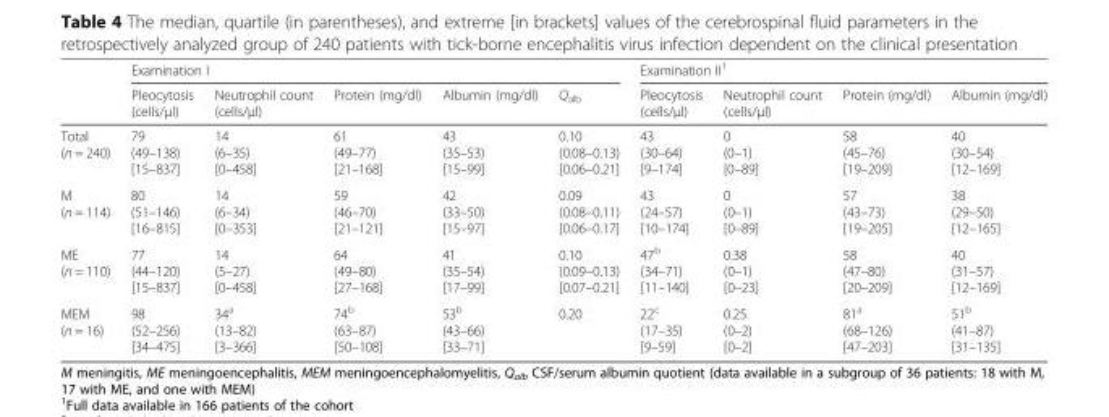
<table><thead><tr><td rowspan="2"></td><td colspan="5">Examination I</td><td colspan="4">Examination II<sup>1</sup></td></tr><tr><td>Pleocytosis (cells/μl)</td><td>Neutrophil count (cells/μl)</td><td>Protein (mg/dl)</td><td>Albumin (mg/dl)</td><td>Q<sub>alb</sub></td><td>Pleocytosis (cells/μl)</td><td>Neutrophil count (cells/μl)</td><td>Protein (mg/dl)</td><td>Albumin (mg/dl)</td></tr></thead><tbody><tr><td>Total (n = 240)</td><td>79 (49–138) [15–837]</td><td>14 (6–35) [0–458]</td><td>61 (49–77) [21–168]</td><td>43 (35–53) [15–99]</td><td>0.10 (0.08–0.13) [0.06–0.21]</td><td>43 (30–64) [9–174]</td><td>0 (0–1) [0–89]</td><td>58 (45–76) [19–209]</td><td>40 (30–54) [12–169]</td></tr><tr><td>M (n = 114)</td><td>80 (51–146) [16–815]</td><td>14 (6–34) [0–353]</td><td>59 (46–70) [21–121]</td><td>42 (33–50) [15–97]</td><td>0.09 (0.08–0.11) [0.06–0.17]</td><td>43 (24–57) [10–174]</td><td>0 (0–1) [0–89]</td><td>57 (43–73) [19–205]</td><td>38 (29–50) [12–165]</td></tr><tr><td>ME (n = 110)</td><td>77 (44–120) [15–837]</td><td>14 (5–27) [0–458]</td><td>64 (49–80) [27–168]</td><td>41 (35–54) [17–99]</td><td>0.10 (0.09–0.13) [0.07–0.21]</td><td>47<sup>b</sup> (34–71) [11–140]</td><td>0.38 (0–1) [0–23]</td><td>58 (47–80) [20–209]</td><td>40 (31–57) [12–169]</td></tr><tr><td>MEM (n = 16)</td><td>98 (52–256) [34–475]</td><td>34<sup>a</sup> (13–82) [3–366]</td><td>74<sup>b</sup> (63–87) [50–108]</td><td>53<sup>b</sup> (43–66) [33–71]</td><td>0.20</td><td>22<sup>c</sup> (17–35) [9–59]</td><td>0.25 (0–2) [0–2]</td><td>81<sup>a</sup> (68–126) [47–203]</td><td>51<sup>b</sup> (41–87) [31–135]</td></tr></tbody></table>